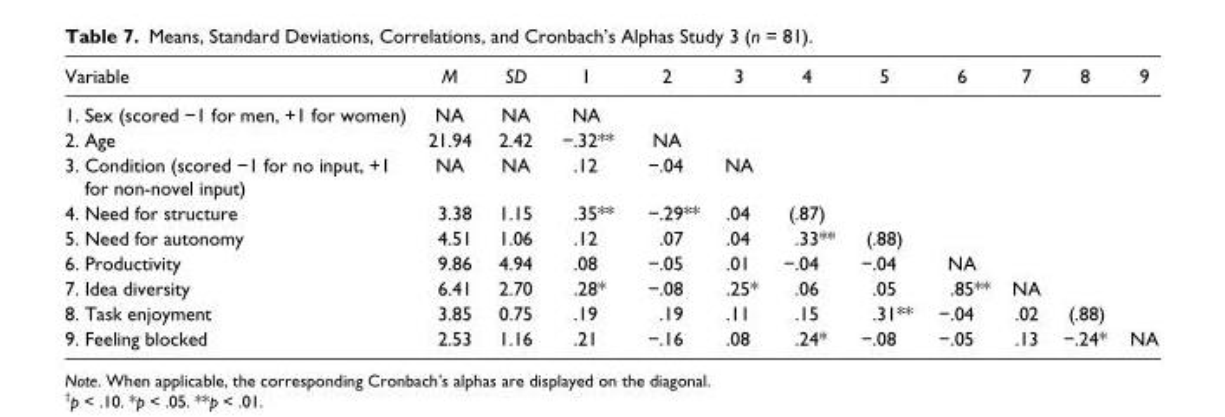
<table><thead><tr><td>Variable</td><td>M</td><td>SD</td><td>1</td><td>2</td><td>3</td><td>4</td><td>5</td><td>6</td><td>7</td><td>8</td><td>9</td></tr></thead><tbody><tr><td>1. Sex (scored −1 for men, +1 for women)</td><td>NA</td><td>NA</td><td>NA</td><td></td><td></td><td></td><td></td><td></td><td></td><td></td><td></td></tr><tr><td>2. Age</td><td>21.94</td><td>2.42</td><td>−.32**</td><td>NA</td><td></td><td></td><td></td><td></td><td></td><td></td><td></td></tr><tr><td>3. Condition (scored −1 for no input, +1 for non-novel input)</td><td>NA</td><td>NA</td><td>.12</td><td>−.04</td><td>NA</td><td></td><td></td><td></td><td></td><td></td><td></td></tr><tr><td>4. Need for structure</td><td>3.38</td><td>1.15</td><td>.35**</td><td>−.29**</td><td>.04</td><td>(.87)</td><td></td><td></td><td></td><td></td><td></td></tr><tr><td>5. Need for autonomy</td><td>4.51</td><td>1.06</td><td>.12</td><td>.07</td><td>.04</td><td>.33**</td><td>(.88)</td><td></td><td></td><td></td><td></td></tr><tr><td>6. Productivity</td><td>9.86</td><td>4.94</td><td>.08</td><td>−.05</td><td>.01</td><td>−.04</td><td>−.04</td><td>NA</td><td></td><td></td><td></td></tr><tr><td>7. Idea diversity</td><td>6.41</td><td>2.70</td><td>.28*</td><td>−.08</td><td>.25*</td><td>.06</td><td>.05</td><td>.85**</td><td>NA</td><td></td><td></td></tr><tr><td>8. Task enjoyment</td><td>3.85</td><td>0.75</td><td>.19</td><td>.19</td><td>.11</td><td>.15</td><td>.31**</td><td>−.04</td><td>.02</td><td>(.88)</td><td></td></tr><tr><td>9. Feeling blocked</td><td>2.53</td><td>1.16</td><td>.21</td><td>−.16</td><td>.08</td><td>.24*</td><td>−.08</td><td>−.05</td><td>.13</td><td>−.24*</td><td>NA</td></tr></tbody></table>